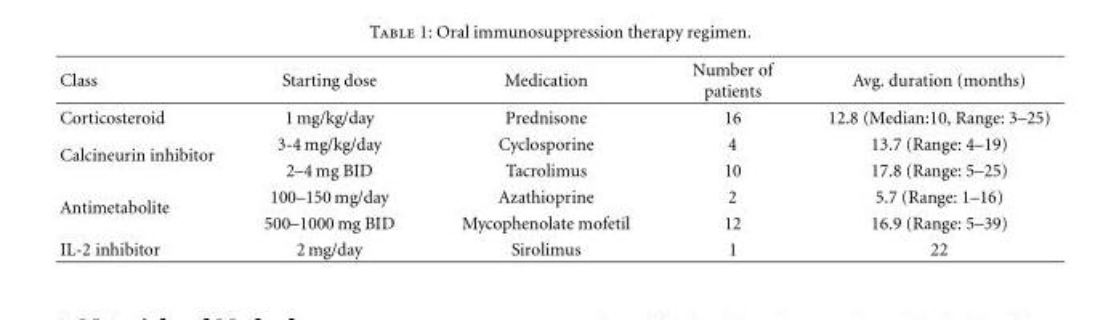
<table><thead><tr><td>Class</td><td>Starting dose</td><td>Medication</td><td>Number of patients</td><td>Avg. duration (months)</td></tr></thead><tbody><tr><td>Corticosteroid</td><td>1 mg/kg/day</td><td>Prednisone</td><td>16</td><td>12.8 (Median:10, Range: 3–25)</td></tr><tr><td rowspan="2">Calcineurin inhibitor</td><td>3-4 mg/kg/day</td><td>Cyclosporine</td><td>4</td><td>13.7 (Range: 4–19)</td></tr><tr><td>2–4 mg BID</td><td>Tacrolimus</td><td>10</td><td>17.8 (Range: 5–25)</td></tr><tr><td rowspan="2">Antimetabolite</td><td>100–150 mg/day</td><td>Azathioprine</td><td>2</td><td>5.7 (Range: 1–16)</td></tr><tr><td>500–1000 mg BID</td><td>Mycophenolate mofetil</td><td>12</td><td>16.9 (Range: 5–39)</td></tr><tr><td>IL-2 inhibitor</td><td>2 mg/day</td><td>Sirolimus</td><td>1</td><td>22</td></tr></tbody></table>